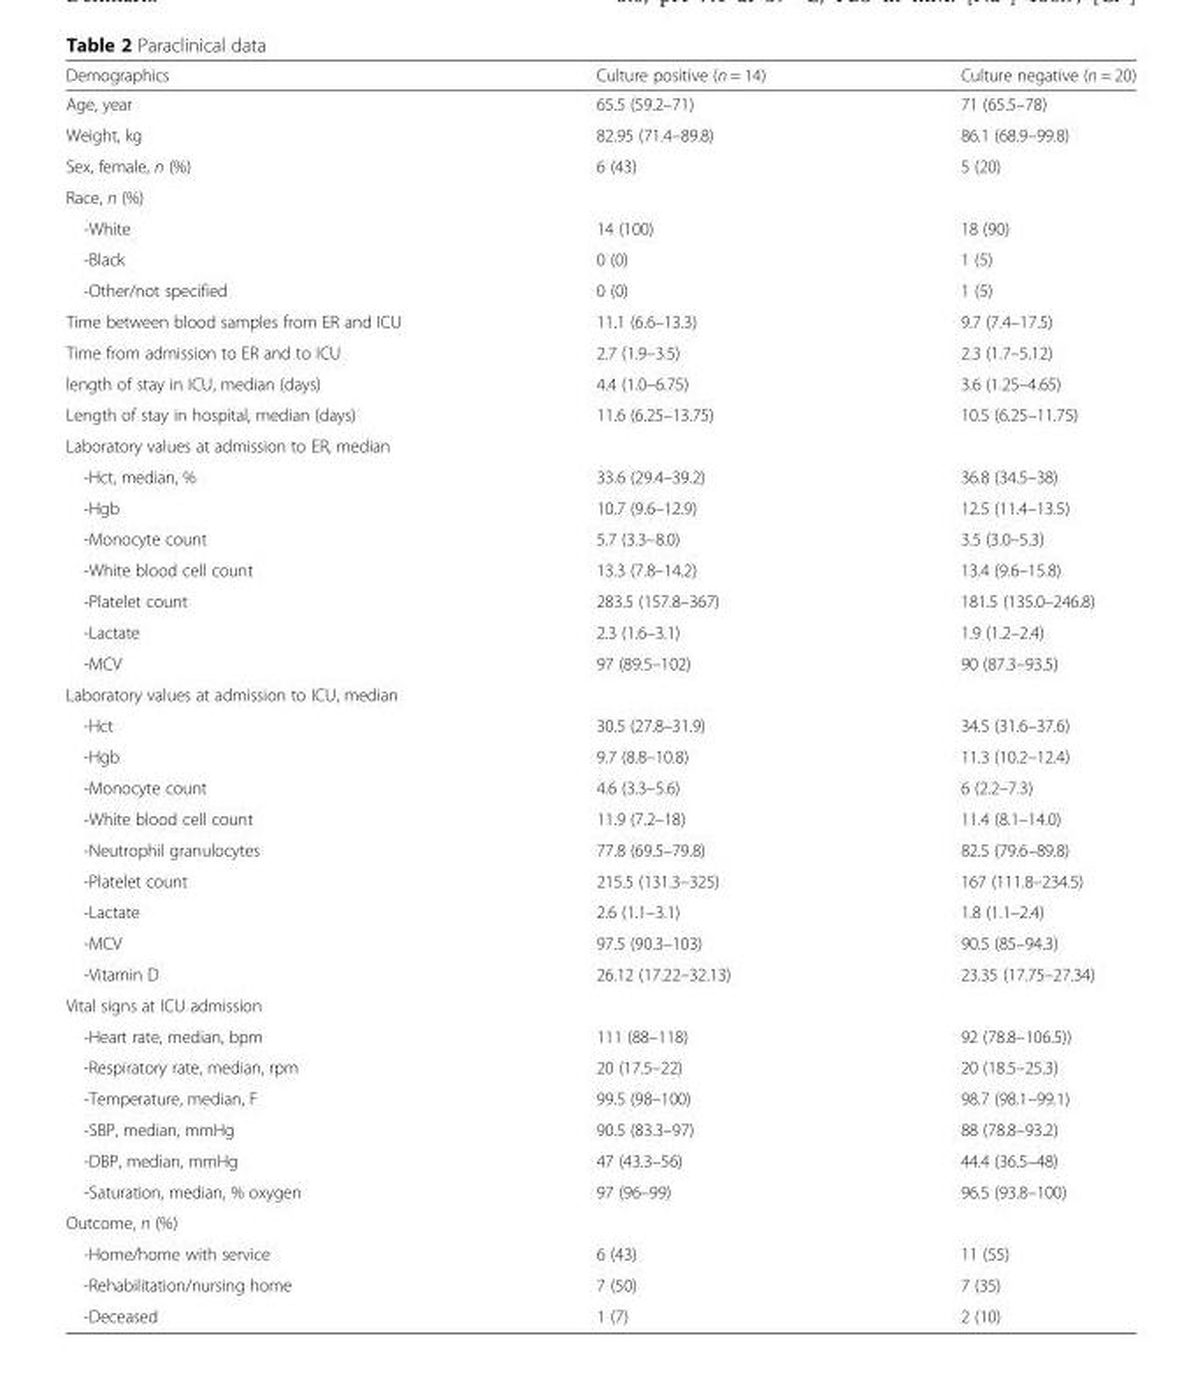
<table><thead><tr><td>Demographics</td><td>Culture positive (n = 14)</td><td>Culture negative (n = 20)</td></tr></thead><tbody><tr><td>Age, year</td><td>65.5 (59.2–71)</td><td>71 (65.5–78)</td></tr><tr><td>Weight, kg</td><td>82.95 (71.4–89.8)</td><td>86.1 (68.9–99.8)</td></tr><tr><td>Sex, female, n (%)</td><td>6 (43)</td><td>5 (20)</td></tr><tr><td colspan="3">Race, n (%)</td></tr><tr><td>-White</td><td>14 (100)</td><td>18 (90)</td></tr><tr><td>-Black</td><td>0 (0)</td><td>1 (5)</td></tr><tr><td>-Other/not specified</td><td>0 (0)</td><td>1 (5)</td></tr><tr><td>Time between blood samples from ER and ICU</td><td>11.1 (6.6–13.3)</td><td>9.7 (7.4–17.5)</td></tr><tr><td>Time from admission to ER and to ICU</td><td>2.7 (1.9–3.5)</td><td>2.3 (1.7–5.12)</td></tr><tr><td>length of stay in ICU, median (days)</td><td>4.4 (1.0–6.75)</td><td>3.6 (1.25–4.65)</td></tr><tr><td>Length of stay in hospital, median (days)</td><td>11.6 (6.25–13.75)</td><td>10.5 (6.25–11.75)</td></tr><tr><td colspan="3">Laboratory values at admission to ER, median</td></tr><tr><td>-Hct, median, %</td><td>33.6 (29.4–39.2)</td><td>36.8 (34.5–38)</td></tr><tr><td>-Hgb</td><td>10.7 (9.6–12.9)</td><td>12.5 (11.4–13.5)</td></tr><tr><td>-Monocyte count</td><td>5.7 (3.3–8.0)</td><td>3.5 (3.0–5.3)</td></tr><tr><td>-White blood cell count</td><td>13.3 (7.8–14.2)</td><td>13.4 (9.6–15.8)</td></tr><tr><td>-Platelet count</td><td>283.5 (157.8–367)</td><td>181.5 (135.0–246.8)</td></tr><tr><td>-Lactate</td><td>2.3 (1.6–3.1)</td><td>1.9 (1.2–2.4)</td></tr><tr><td>-MCV</td><td>97 (89.5–102)</td><td>90 (87.3–93.5)</td></tr><tr><td colspan="3">Laboratory values at admission to ICU, median</td></tr><tr><td>-Hct</td><td>30.5 (27.8–31.9)</td><td>34.5 (31.6–37.6)</td></tr><tr><td>-Hgb</td><td>9.7 (8.8–10.8)</td><td>11.3 (10.2–12.4)</td></tr><tr><td>-Monocyte count</td><td>4.6 (3.3–5.6)</td><td>6 (2.2–7.3)</td></tr><tr><td>-White blood cell count</td><td>11.9 (7.2–18)</td><td>11.4 (8.1–14.0)</td></tr><tr><td>-Neutrophil granulocytes</td><td>77.8 (69.5–79.8)</td><td>82.5 (79.6–89.8)</td></tr><tr><td>-Platelet count</td><td>215.5 (131.3–325)</td><td>167 (111.8–234.5)</td></tr><tr><td>-Lactate</td><td>2.6 (1.1–3.1)</td><td>1.8 (1.1–2.4)</td></tr><tr><td>-MCV</td><td>97.5 (90.3–103)</td><td>90.5 (85–94.3)</td></tr><tr><td>-Vitamin D</td><td>26.12 (17.22–32.13)</td><td>23.35 (17.75–27.34)</td></tr><tr><td colspan="3">Vital signs at ICU admission</td></tr><tr><td>-Heart rate, median, bpm</td><td>111 (88–118)</td><td>92 (78.8–106.5))</td></tr><tr><td>-Respiratory rate, median, rpm</td><td>20 (17.5–22)</td><td>20 (18.5–25.3)</td></tr><tr><td>-Temperature, median, F</td><td>99.5 (98–100)</td><td>98.7 (98.1–99.1)</td></tr><tr><td>-SBP, median, mmHg</td><td>90.5 (83.3–97)</td><td>88 (78.8–93.2)</td></tr><tr><td>-DBP, median, mmHg</td><td>47 (43.3–56)</td><td>44.4 (36.5–48)</td></tr><tr><td>-Saturation, median, % oxygen</td><td>97 (96–99)</td><td>96.5 (93.8–100)</td></tr><tr><td colspan="3">Outcome, n (%)</td></tr><tr><td>-Home/home with service</td><td>6 (43)</td><td>11 (55)</td></tr><tr><td>-Rehabilitation/nursing home</td><td>7 (50)</td><td>7 (35)</td></tr><tr><td>-Deceased</td><td>1 (7)</td><td>2 (10)</td></tr></tbody></table>